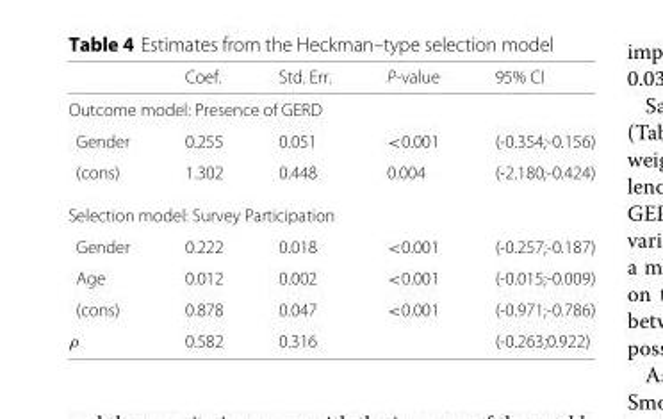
<table><thead><tr><td></td><td>Coef.</td><td>Std. Err.</td><td>P-value</td><td>95% CI</td></tr></thead><tbody><tr><td colspan="5">Outcome model: Presence of GERD</td></tr><tr><td>Gender</td><td>0.255</td><td>0.051</td><td>&lt;0.001</td><td>(-0.354;-0.156)</td></tr><tr><td>(cons)</td><td>1.302</td><td>0.448</td><td>0.004</td><td>(-2.180;-0.424)</td></tr><tr><td colspan="5">Selection model: Survey Participation</td></tr><tr><td>Gender</td><td>0.222</td><td>0.018</td><td>&lt;0.001</td><td>(-0.257;-0.187)</td></tr><tr><td>Age</td><td>0.012</td><td>0.002</td><td>&lt;0.001</td><td>(-0.015;-0.009)</td></tr><tr><td>(cons)</td><td>0.878</td><td>0.047</td><td>&lt;0.001</td><td>(-0.971;-0.786)</td></tr><tr><td>ρ</td><td>0.582</td><td>0.316</td><td></td><td>(-0.263;0.922)</td></tr></tbody></table>